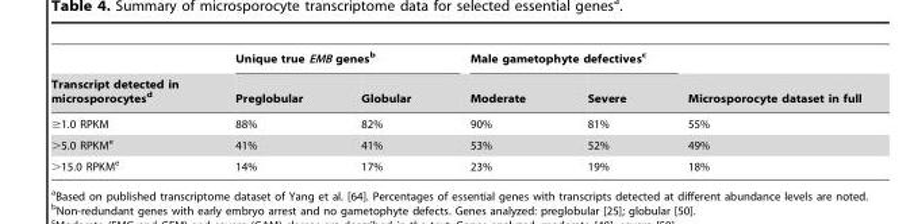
<table><thead><tr><td rowspan="2">Transcript detected in microsporocytes<sup>d</sup></td><td colspan="2">Unique true EMB genes<sup>b</sup></td><td colspan="2">Male gametophyte defectives<sup>c</sup></td><td rowspan="2">Microsporocyte dataset in full</td></tr><tr><td>Preglobular</td><td>Globular</td><td>Moderate</td><td>Severe</td></tr></thead><tbody><tr><td>≥1.0 RPKM</td><td>88%</td><td>82%</td><td>90%</td><td>81%</td><td>55%</td></tr><tr><td>&gt;5.0 RPKM<sup>e</sup></td><td>41%</td><td>41%</td><td>53%</td><td>52%</td><td>49%</td></tr><tr><td>&gt;15.0 RPKM<sup>e</sup></td><td>14%</td><td>17%</td><td>23%</td><td>19%</td><td>18%</td></tr></tbody></table>